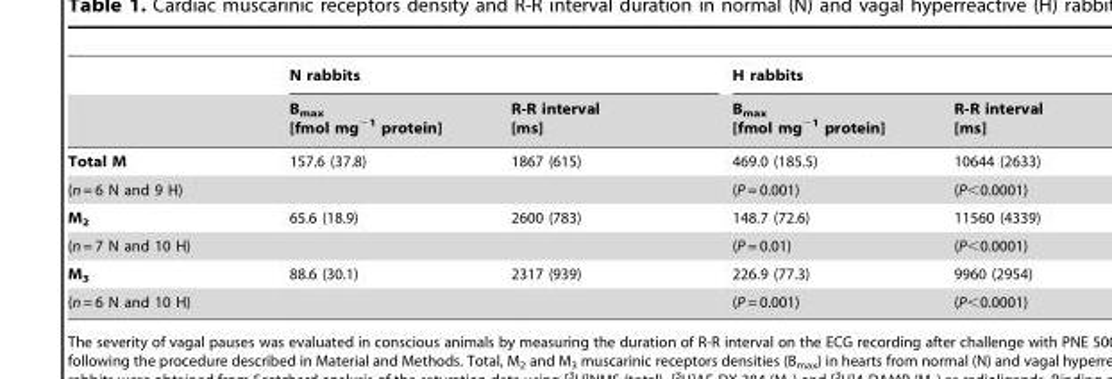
<table><thead><tr><td rowspan="2"></td><td colspan="2">N rabbits</td><td colspan="2">H rabbits</td></tr><tr><td>B<sub>max</sub> [fmol mg<sup>−1</sup> protein]</td><td>R-R interval [ms]</td><td>B<sub>max</sub> [fmol mg<sup>−1</sup> protein]</td><td>R-R interval [ms]</td></tr></thead><tbody><tr><td>Total M</td><td>157.6 (37.8)</td><td>1867 (615)</td><td>469.0 (185.5)</td><td>10644 (2633)</td></tr><tr><td>(n = 6 N and 9 H)</td><td></td><td></td><td>(P = 0.001)</td><td>(P&lt;0.0001)</td></tr><tr><td>M<sub>2</sub></td><td>65.6 (18.9)</td><td>2600 (783)</td><td>148.7 (72.6)</td><td>11560 (4339)</td></tr><tr><td>(n = 7 N and 10 H)</td><td></td><td></td><td>(P = 0.01)</td><td>(P&lt;0.0001)</td></tr><tr><td>M<sub>3</sub></td><td>88.6 (30.1)</td><td>2317 (939)</td><td>226.9 (77.3)</td><td>9960 (2954)</td></tr><tr><td>(n = 6 N and 10 H)</td><td></td><td></td><td>(P = 0.001)</td><td>(P&lt;0.0001)</td></tr></tbody></table>